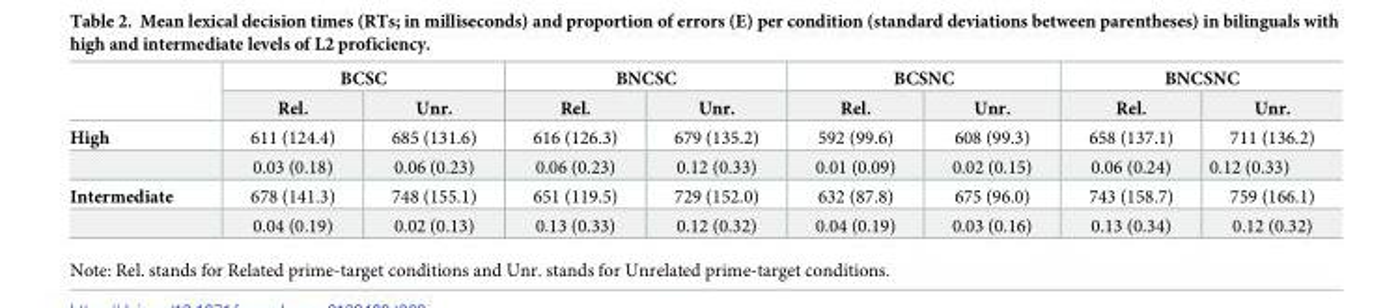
<table><thead><tr><td rowspan="2"></td><td colspan="2">BCSC</td><td colspan="2">BNCSC</td><td colspan="2">BCSNC</td><td colspan="2">BNCSNC</td></tr><tr><td>Rel.</td><td>Unr.</td><td>Rel.</td><td>Unr.</td><td>Rel.</td><td>Unr.</td><td>Rel.</td><td>Unr.</td></tr></thead><tbody><tr><td rowspan="2">High</td><td>611 (124.4)</td><td>685 (131.6)</td><td>616 (126.3)</td><td>679 (135.2)</td><td>592 (99.6)</td><td>608 (99.3)</td><td>658 (137.1)</td><td>711 (136.2)</td></tr><tr><td>0.03 (0.18)</td><td>0.06 (0.23)</td><td>0.06 (0.23)</td><td>0.12 (0.33)</td><td>0.01 (0.09)</td><td>0.02 (0.15)</td><td>0.06 (0.24)</td><td>0.12 (0.33)</td></tr><tr><td rowspan="2">Intermediate</td><td>678 (141.3)</td><td>748 (155.1)</td><td>651 (119.5)</td><td>729 (152.0)</td><td>632 (87.8)</td><td>675 (96.0)</td><td>743 (158.7)</td><td>759 (166.1)</td></tr><tr><td>0.04 (0.19)</td><td>0.02 (0.13)</td><td>0.13 (0.33)</td><td>0.12 (0.32)</td><td>0.04 (0.19)</td><td>0.03 (0.16)</td><td>0.13 (0.34)</td><td>0.12 (0.32)</td></tr></tbody></table>